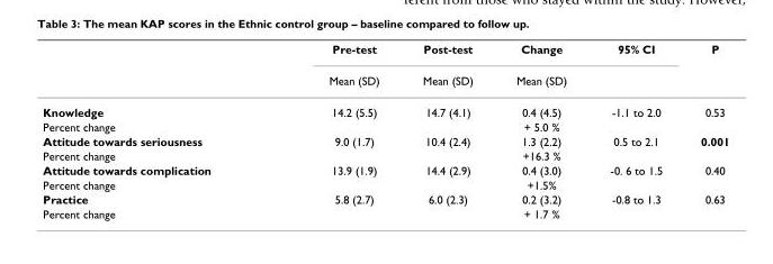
<table><thead><tr><td rowspan="2"></td><td rowspan="2">Pre-test Mean (SD)</td><td rowspan="2">Post-test Mean (SD)</td><td rowspan="2">Change Mean (SD)</td><td rowspan="2">95% CI</td><td rowspan="2">P</td></tr><tr></tr></thead><tbody><tr><td>Knowledge</td><td>14.2 (5.5)</td><td>14.7 (4.1)</td><td>0.4 (4.5)</td><td>-1.1 to 2.0</td><td>0.53</td></tr><tr><td>Percent change</td><td></td><td></td><td>+ 5.0 %</td><td></td><td></td></tr><tr><td>Attitude towards seriousness</td><td>9.0 (1.7)</td><td>10.4 (2.4)</td><td>1.3 (2.2)</td><td>0.5 to 2.1</td><td>0.001</td></tr><tr><td>Percent change</td><td></td><td></td><td>+16.3 %</td><td></td><td></td></tr><tr><td>Attitude towards complication</td><td>13.9 (1.9)</td><td>14.4 (2.9)</td><td>0.4 (3.0)</td><td>-0. 6 to 1.5</td><td>0.40</td></tr><tr><td>Percent change</td><td></td><td></td><td>+1.5%</td><td></td><td></td></tr><tr><td>Practice</td><td>5.8 (2.7)</td><td>6.0 (2.3)</td><td>0.2 (3.2)</td><td>-0.8 to 1.3</td><td>0.63</td></tr><tr><td>Percent change</td><td></td><td></td><td>+ 1.7 %</td><td></td><td></td></tr></tbody></table>